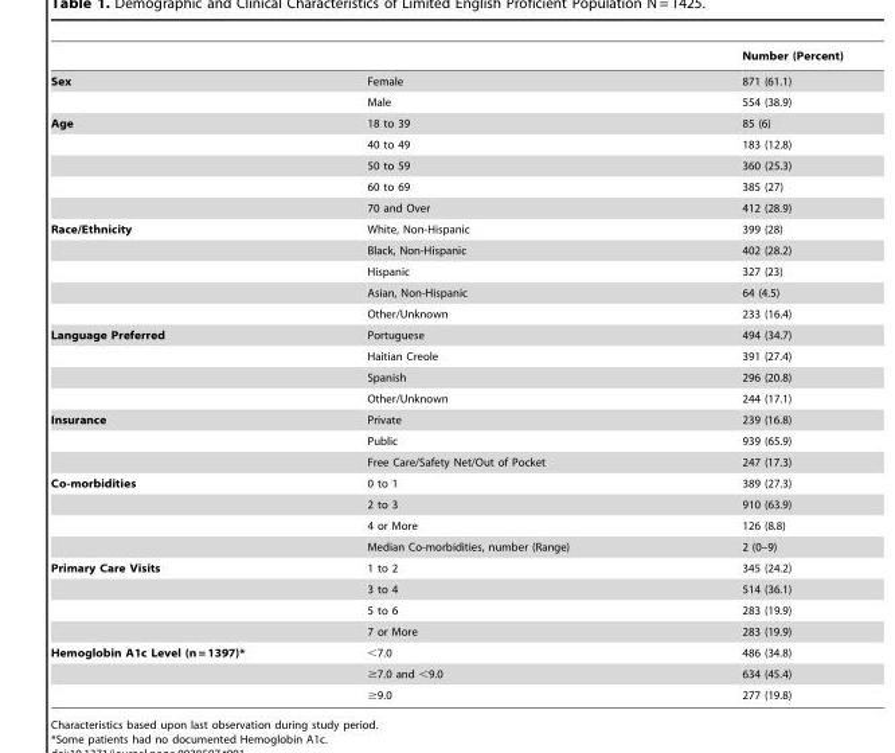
<table><thead><tr><td></td><td></td><td>Number (Percent)</td></tr></thead><tbody><tr><td rowspan="2">Sex</td><td>Female</td><td>871 (61.1)</td></tr><tr><td>Male</td><td>554 (38.9)</td></tr><tr><td rowspan="5">Age</td><td>18 to 39</td><td>85 (6)</td></tr><tr><td>40 to 49</td><td>183 (12.8)</td></tr><tr><td>50 to 59</td><td>360 (25.3)</td></tr><tr><td>60 to 69</td><td>385 (27)</td></tr><tr><td>70 and Over</td><td>412 (28.9)</td></tr><tr><td rowspan="5">Race/Ethnicity</td><td>White, Non-Hispanic</td><td>399 (28)</td></tr><tr><td>Black, Non-Hispanic</td><td>402 (28.2)</td></tr><tr><td>Hispanic</td><td>327 (23)</td></tr><tr><td>Asian, Non-Hispanic</td><td>64 (4.5)</td></tr><tr><td>Other/Unknown</td><td>233 (16.4)</td></tr><tr><td rowspan="4">Language Preferred</td><td>Portuguese</td><td>494 (34.7)</td></tr><tr><td>Haitian Creole</td><td>391 (27.4)</td></tr><tr><td>Spanish</td><td>296 (20.8)</td></tr><tr><td>Other/Unknown</td><td>244 (17.1)</td></tr><tr><td rowspan="3">Insurance</td><td>Private</td><td>239 (16.8)</td></tr><tr><td>Public</td><td>939 (65.9)</td></tr><tr><td>Free Care/Safety Net/Out of Pocket</td><td>247 (17.3)</td></tr><tr><td rowspan="4">Co-morbidities</td><td>0 to 1</td><td>389 (27.3)</td></tr><tr><td>2 to 3</td><td>910 (63.9)</td></tr><tr><td>4 or More</td><td>126 (8.8)</td></tr><tr><td>Median Co-morbidities, number (Range)</td><td>2 (0–9)</td></tr><tr><td rowspan="4">Primary Care Visits</td><td>1 to 2</td><td>345 (24.2)</td></tr><tr><td>3 to 4</td><td>514 (36.1)</td></tr><tr><td>5 to 6</td><td>283 (19.9)</td></tr><tr><td>7 or More</td><td>283 (19.9)</td></tr><tr><td rowspan="3">Hemoglobin A1c Level (n = 1397)*</td><td>&lt;7.0</td><td>486 (34.8)</td></tr><tr><td>≥7.0 and &lt;9.0</td><td>634 (45.4)</td></tr><tr><td>≥9.0</td><td>277 (19.8)</td></tr></tbody></table>